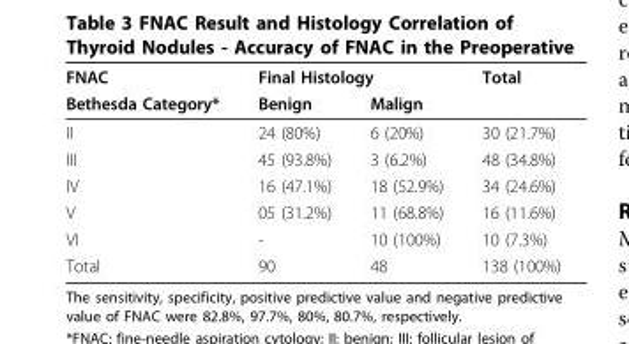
<table><thead><tr><td rowspan="2">FNAC Bethesda Category*</td><td colspan="2">Final Histology</td><td rowspan="2">Total</td></tr><tr><td>Benign</td><td>Malign</td></tr></thead><tbody><tr><td>II</td><td>24 (80%)</td><td>6 (20%)</td><td>30 (21.7%)</td></tr><tr><td>III</td><td>45 (93.8%)</td><td>3 (6.2%)</td><td>48 (34.8%)</td></tr><tr><td>IV</td><td>16 (47.1%)</td><td>18 (52.9%)</td><td>34 (24.6%)</td></tr><tr><td>V</td><td>05 (31.2%)</td><td>11 (68.8%)</td><td>16 (11.6%)</td></tr><tr><td>VI</td><td>-</td><td>10 (100%)</td><td>10 (7.3%)</td></tr><tr><td>Total</td><td>90</td><td>48</td><td>138 (100%)</td></tr></tbody></table>